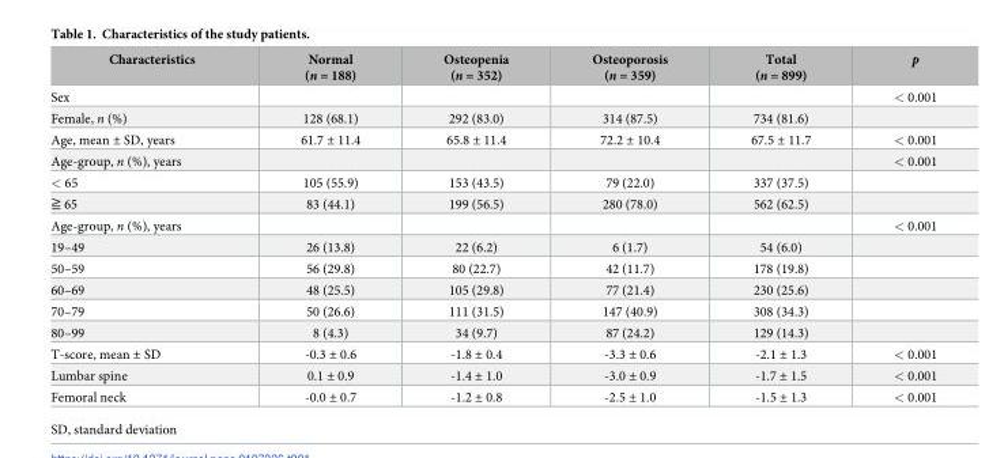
<table><thead><tr><td>Characteristics</td><td>Normal (n = 188)</td><td>Osteopenia (n = 352)</td><td>Osteoporosis (n = 359)</td><td>Total (n = 899)</td><td>p</td></tr></thead><tbody><tr><td>Sex</td><td></td><td></td><td></td><td></td><td>&lt; 0.001</td></tr><tr><td>Female, n (%)</td><td>128 (68.1)</td><td>292 (83.0)</td><td>314 (87.5)</td><td>734 (81.6)</td><td></td></tr><tr><td>Age, mean ± SD, years</td><td>61.7 ± 11.4</td><td>65.8 ± 11.4</td><td>72.2 ± 10.4</td><td>67.5 ± 11.7</td><td>&lt; 0.001</td></tr><tr><td>Age-group, n (%), years</td><td></td><td></td><td></td><td></td><td>&lt; 0.001</td></tr><tr><td>&lt; 65</td><td>105 (55.9)</td><td>153 (43.5)</td><td>79 (22.0)</td><td>337 (37.5)</td><td></td></tr><tr><td>≧ 65</td><td>83 (44.1)</td><td>199 (56.5)</td><td>280 (78.0)</td><td>562 (62.5)</td><td></td></tr><tr><td>Age-group, n (%), years</td><td></td><td></td><td></td><td></td><td>&lt; 0.001</td></tr><tr><td>19–49</td><td>26 (13.8)</td><td>22 (6.2)</td><td>6 (1.7)</td><td>54 (6.0)</td><td></td></tr><tr><td>50–59</td><td>56 (29.8)</td><td>80 (22.7)</td><td>42 (11.7)</td><td>178 (19.8)</td><td></td></tr><tr><td>60–69</td><td>48 (25.5)</td><td>105 (29.8)</td><td>77 (21.4)</td><td>230 (25.6)</td><td></td></tr><tr><td>70–79</td><td>50 (26.6)</td><td>111 (31.5)</td><td>147 (40.9)</td><td>308 (34.3)</td><td></td></tr><tr><td>80–99</td><td>8 (4.3)</td><td>34 (9.7)</td><td>87 (24.2)</td><td>129 (14.3)</td><td></td></tr><tr><td>T-score, mean ± SD</td><td>-0.3 ± 0.6</td><td>-1.8 ± 0.4</td><td>-3.3 ± 0.6</td><td>-2.1 ± 1.3</td><td>&lt; 0.001</td></tr><tr><td>Lumbar spine</td><td>0.1 ± 0.9</td><td>-1.4 ± 1.0</td><td>-3.0 ± 0.9</td><td>-1.7 ± 1.5</td><td>&lt; 0.001</td></tr><tr><td>Femoral neck</td><td>-0.0 ± 0.7</td><td>-1.2 ± 0.8</td><td>-2.5 ± 1.0</td><td>-1.5 ± 1.3</td><td>&lt; 0.001</td></tr></tbody></table>